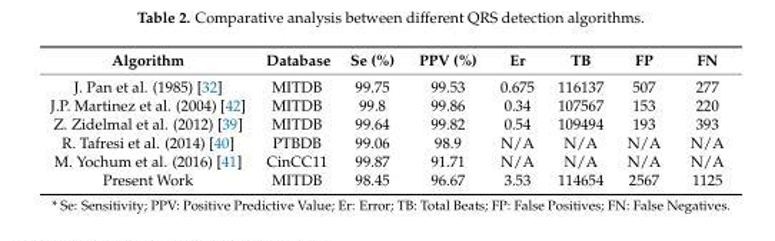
<table><thead><tr><td>Algorithm</td><td>Database</td><td>Se (%)</td><td>PPV (%)</td><td>Er</td><td>TB</td><td>FP</td><td>FN</td></tr></thead><tbody><tr><td>J. Pan et al. (1985) [32]</td><td>MITDB</td><td>99.75</td><td>99.53</td><td>0.675</td><td>116137</td><td>507</td><td>277</td></tr><tr><td>J.P. Martinez et al. (2004) [42]</td><td>MITDB</td><td>99.8</td><td>99.86</td><td>0.34</td><td>107567</td><td>153</td><td>220</td></tr><tr><td>Z. Zidelmal et al. (2012) [39]</td><td>MITDB</td><td>99.64</td><td>99.82</td><td>0.54</td><td>109494</td><td>193</td><td>393</td></tr><tr><td>R. Tafresi et al. (2014) [40]</td><td>PTBDB</td><td>99.06</td><td>98.9</td><td>N/A</td><td>N/A</td><td>N/A</td><td>N/A</td></tr><tr><td>M. Yochum et al. (2016) [41]</td><td>CinCC11</td><td>99.87</td><td>91.71</td><td>N/A</td><td>N/A</td><td>N/A</td><td>N/A</td></tr><tr><td>Present Work</td><td>MITDB</td><td>98.45</td><td>96.67</td><td>3.53</td><td>114654</td><td>2567</td><td>1125</td></tr></tbody></table>